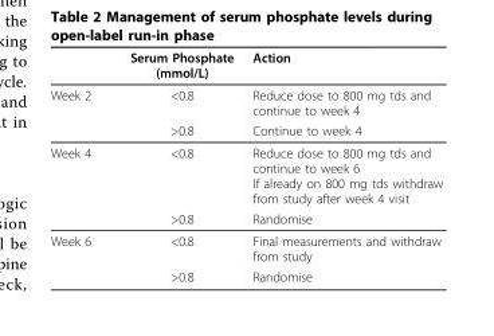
<table><thead><tr><td></td><td>Serum Phosphate (mmol/L)</td><td>Action</td></tr></thead><tbody><tr><td rowspan="2">Week 2</td><td>&lt;0.8</td><td>Reduce dose to 800 mg tds and continue to week 4</td></tr><tr><td>&gt;0.8</td><td>Continue to week 4</td></tr><tr><td rowspan="2">Week 4</td><td>&lt;0.8</td><td>Reduce dose to 800 mg tds and continue to week 6 If already on 800 mg tds withdraw from study after week 4 visit</td></tr><tr><td>&gt;0.8</td><td>Randomise</td></tr><tr><td rowspan="2">Week 6</td><td>&lt;0.8</td><td>Final measurements and withdraw from study</td></tr><tr><td>&gt;0.8</td><td>Randomise</td></tr></tbody></table>